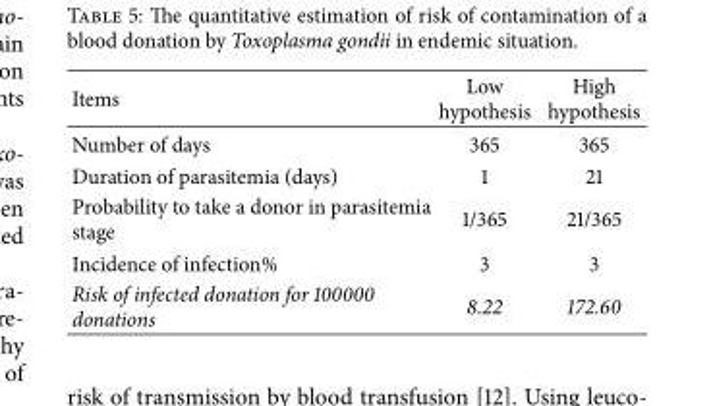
<table><thead><tr><td>Items</td><td>Low hypothesis</td><td>High hypothesis</td></tr></thead><tbody><tr><td>Number of days</td><td>365</td><td>365</td></tr><tr><td>Duration of parasitemia (days)</td><td>1</td><td>21</td></tr><tr><td>Probability to take a donor in parasitemia stage</td><td>1/365</td><td>21/365</td></tr><tr><td>Incidence of infection%</td><td>3</td><td>3</td></tr><tr><td>Risk of infected donation for 100000 donations</td><td>8.22</td><td>172.60</td></tr></tbody></table>